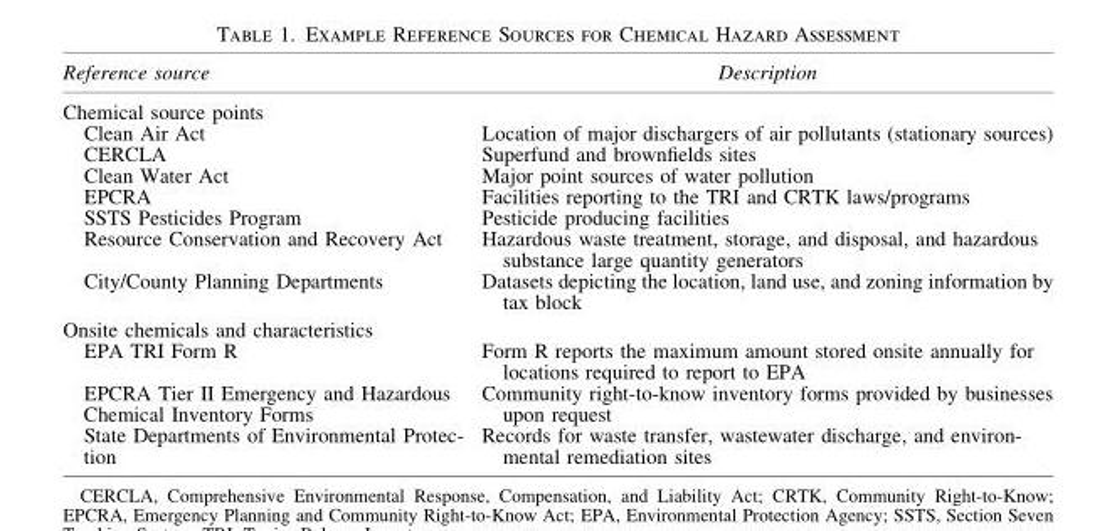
<table><thead><tr><td>Reference source</td><td>Description</td></tr></thead><tbody><tr><td colspan="2">Chemical source points</td></tr><tr><td>Clean Air Act</td><td>Location of major dischargers of air pollutants (stationary sources)</td></tr><tr><td>CERCLA</td><td>Superfund and brownfields sites</td></tr><tr><td>Clean Water Act</td><td>Major point sources of water pollution</td></tr><tr><td>EPCRA</td><td>Facilities reporting to the TRI and CRTK laws/programs</td></tr><tr><td>SSTS Pesticides Program</td><td>Pesticide producing facilities</td></tr><tr><td>Resource Conservation and Recovery Act</td><td>Hazardous waste treatment, storage, and disposal, and hazardous substance large quantity generators</td></tr><tr><td>City/County Planning Departments</td><td>Datasets depicting the location, land use, and zoning information by tax block</td></tr><tr><td colspan="2">Onsite chemicals and characteristics</td></tr><tr><td>EPA TRI Form R</td><td>Form R reports the maximum amount stored onsite annually for locations required to report to EPA</td></tr><tr><td>EPCRA Tier II Emergency and Hazardous Chemical Inventory Forms</td><td>Community right-to-know inventory forms provided by businesses upon request</td></tr><tr><td>State Departments of Environmental Protec- tion</td><td>Records for waste transfer, wastewater discharge, and environ- mental remediation sites</td></tr></tbody></table>